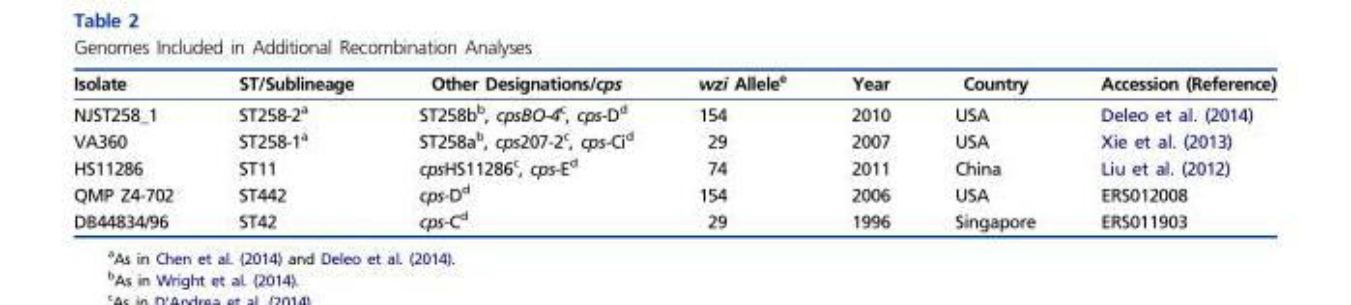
<table><thead><tr><td>Isolate</td><td>ST/Sublineage</td><td>Other Designations/cps</td><td>wzi Allele<sup>e</sup></td><td>Year</td><td>Country</td><td>Accession (Reference)</td></tr></thead><tbody><tr><td>NJST258_1</td><td>ST258-2<sup>a</sup></td><td>ST258b<sup>b</sup>, cpsBO-4<sup>c</sup>, cps-D<sup>d</sup></td><td>154</td><td>2010</td><td>USA</td><td>Deleo et al. (2014)</td></tr><tr><td>VA360</td><td>ST258-1<sup>a</sup></td><td>ST258a<sup>b</sup>, cps207-2<sup>c</sup>, cps-Ci<sup>d</sup></td><td>29</td><td>2007</td><td>USA</td><td>Xie et al. (2013)</td></tr><tr><td>HS11286</td><td>ST11</td><td>cpsHS11286<sup>c</sup>, cps-E<sup>d</sup></td><td>74</td><td>2011</td><td>China</td><td>Liu et al. (2012)</td></tr><tr><td>QMP Z4-702</td><td>ST442</td><td>cps-D<sup>d</sup></td><td>154</td><td>2006</td><td>USA</td><td>ERS012008</td></tr><tr><td>DB44834/96</td><td>ST42</td><td>cps-C<sup>d</sup></td><td>29</td><td>1996</td><td>Singapore</td><td>ERS011903</td></tr></tbody></table>